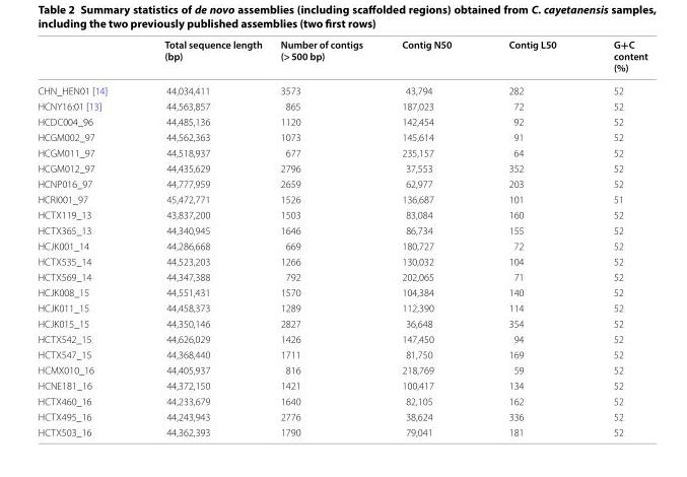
<table><thead><tr><td></td><td>Total sequence length (bp)</td><td>Number of contigs (&gt; 500 bp)</td><td>Contig N50</td><td>Contig L50</td><td>G+C content (%)</td></tr></thead><tbody><tr><td>CHN_HEN01 [14]</td><td>44,034,411</td><td>3573</td><td>43,794</td><td>282</td><td>52</td></tr><tr><td>HCNY16:01 [13]</td><td>44,563,857</td><td>865</td><td>187,023</td><td>72</td><td>52</td></tr><tr><td>HCDC004_96</td><td>44,485,136</td><td>1120</td><td>142,454</td><td>92</td><td>52</td></tr><tr><td>HCGM002_97</td><td>44,562,363</td><td>1073</td><td>145,614</td><td>91</td><td>52</td></tr><tr><td>HCGM011_97</td><td>44,518,937</td><td>677</td><td>235,157</td><td>64</td><td>52</td></tr><tr><td>HCGM012_97</td><td>44,435,629</td><td>2796</td><td>37,553</td><td>352</td><td>52</td></tr><tr><td>HCNP016_97</td><td>44,777,959</td><td>2659</td><td>62,977</td><td>203</td><td>52</td></tr><tr><td>HCRI001_97</td><td>45,472,771</td><td>1526</td><td>136,687</td><td>101</td><td>51</td></tr><tr><td>HCTX119_13</td><td>43,837,200</td><td>1503</td><td>83,084</td><td>160</td><td>52</td></tr><tr><td>HCTX365_13</td><td>44,340,945</td><td>1646</td><td>86,734</td><td>155</td><td>52</td></tr><tr><td>HCJK001_14</td><td>44,286,668</td><td>669</td><td>180,727</td><td>72</td><td>52</td></tr><tr><td>HCTX535_14</td><td>44,523,203</td><td>1266</td><td>130,032</td><td>104</td><td>52</td></tr><tr><td>HCTX569_14</td><td>44,347,388</td><td>792</td><td>202,065</td><td>71</td><td>52</td></tr><tr><td>HCJK008_15</td><td>44,551,431</td><td>1570</td><td>104,384</td><td>140</td><td>52</td></tr><tr><td>HCJK011_15</td><td>44,458,373</td><td>1289</td><td>112,390</td><td>114</td><td>52</td></tr><tr><td>HCJK015_15</td><td>44,350,146</td><td>2827</td><td>36,648</td><td>354</td><td>52</td></tr><tr><td>HCTX542_15</td><td>44,626,029</td><td>1426</td><td>147,450</td><td>94</td><td>52</td></tr><tr><td>HCTX547_15</td><td>44,368,440</td><td>1711</td><td>81,750</td><td>169</td><td>52</td></tr><tr><td>HCMX010_16</td><td>44,405,937</td><td>816</td><td>218,769</td><td>59</td><td>52</td></tr><tr><td>HCNE181_16</td><td>44,372,150</td><td>1421</td><td>100,417</td><td>134</td><td>52</td></tr><tr><td>HCTX460_16</td><td>44,233,679</td><td>1640</td><td>82,105</td><td>162</td><td>52</td></tr><tr><td>HCTX495_16</td><td>44,243,943</td><td>2776</td><td>38,624</td><td>336</td><td>52</td></tr><tr><td>HCTX503_16</td><td>44,362,393</td><td>1790</td><td>79,041</td><td>181</td><td>52</td></tr></tbody></table>